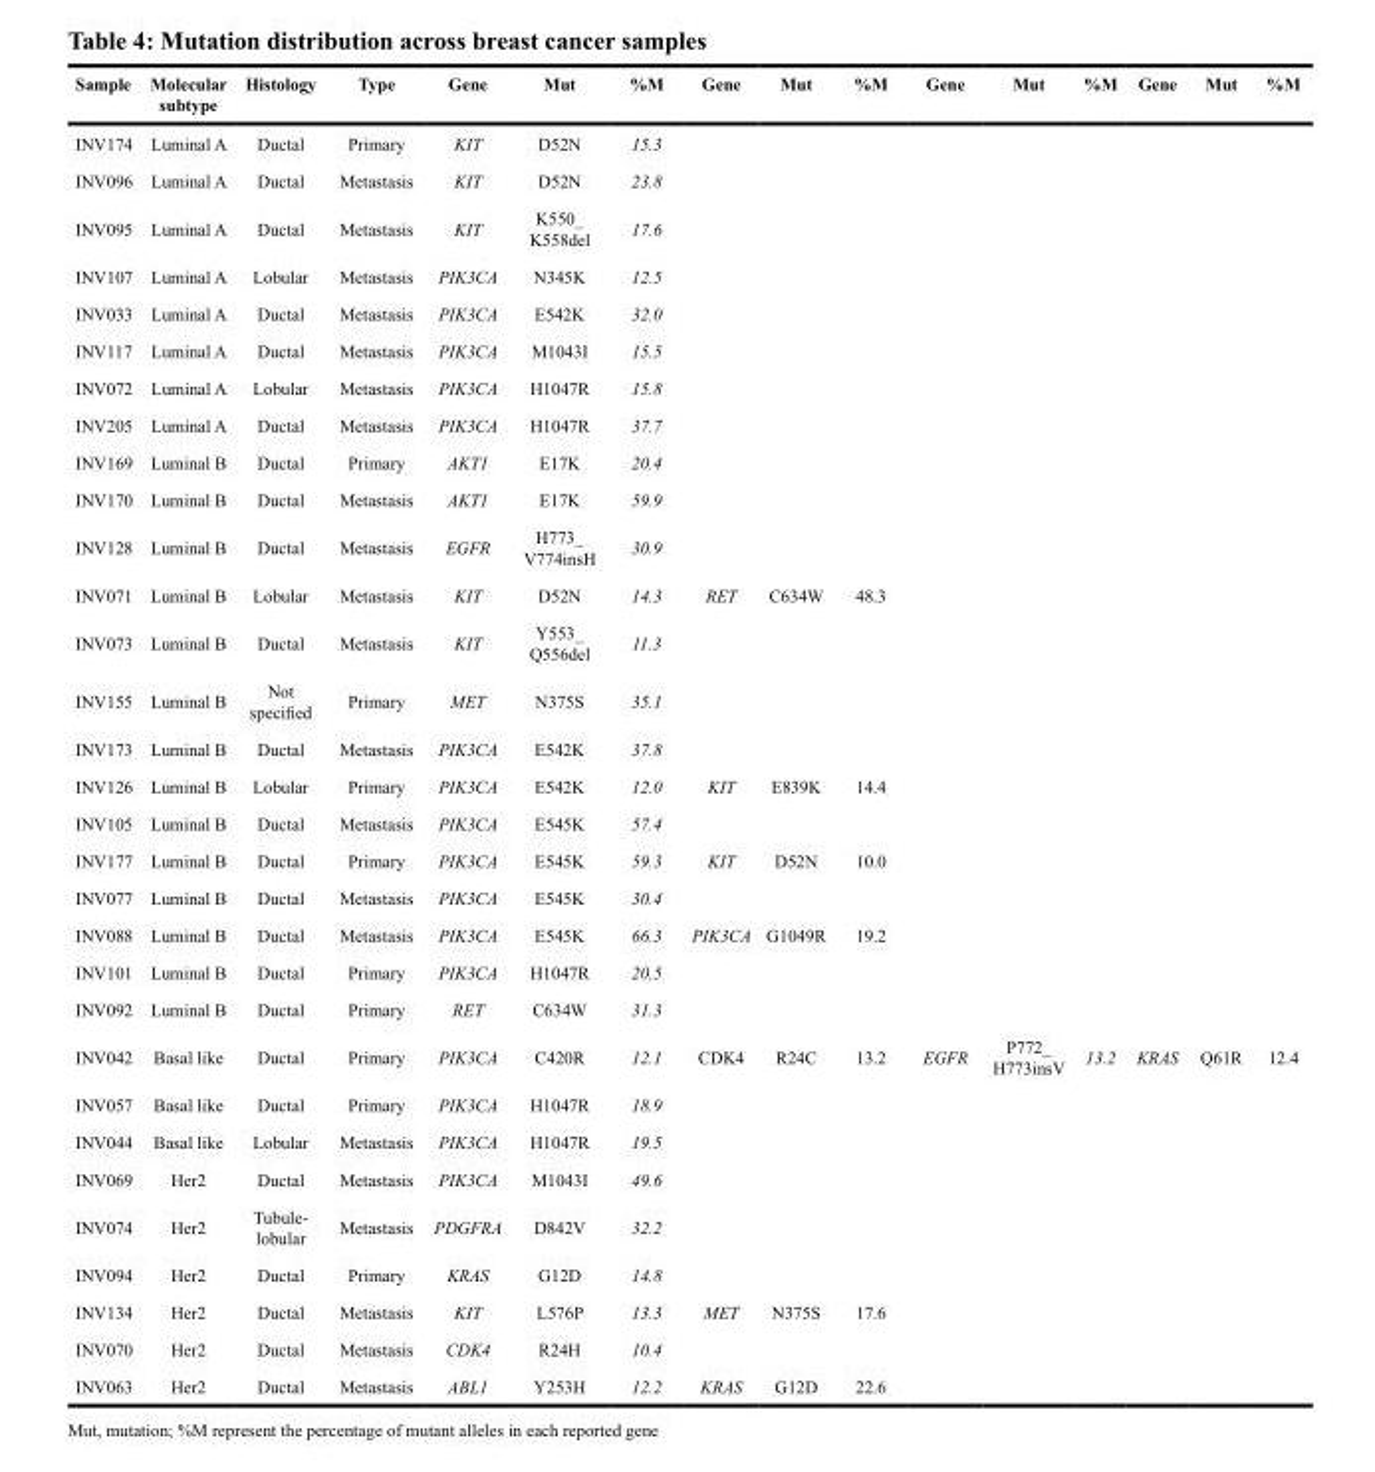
<table><thead><tr><td>Sample</td><td>Molecular subtype</td><td>Histology</td><td>Type</td><td>Gene</td><td>Mut</td><td>%M</td><td>Gene</td><td>Mut</td><td>%M</td><td>Gene</td><td>Mut</td><td>%M</td><td>Gene</td><td>Mut</td><td>%M</td></tr></thead><tbody><tr><td>INV174</td><td>Luminal A</td><td>Ductal</td><td>Primary</td><td>KIT</td><td>D52N</td><td>15.3</td><td></td><td></td><td></td><td></td><td></td><td></td><td></td><td></td><td></td></tr><tr><td>INV096</td><td>Luminal A</td><td>Ductal</td><td>Metastasis</td><td>KIT</td><td>D52N</td><td>23.8</td><td></td><td></td><td></td><td></td><td></td><td></td><td></td><td></td><td></td></tr><tr><td>INV095</td><td>Luminal A</td><td>Ductal</td><td>Metastasis</td><td>KIT</td><td>K550_ K558del</td><td>17.6</td><td></td><td></td><td></td><td></td><td></td><td></td><td></td><td></td><td></td></tr><tr><td>INV107</td><td>Luminal A</td><td>Lobular</td><td>Metastasis</td><td>PIK3CA</td><td>N345K</td><td>12.5</td><td></td><td></td><td></td><td></td><td></td><td></td><td></td><td></td><td></td></tr><tr><td>INV033</td><td>Luminal A</td><td>Ductal</td><td>Metastasis</td><td>PIK3CA</td><td>E542K</td><td>32.0</td><td></td><td></td><td></td><td></td><td></td><td></td><td></td><td></td><td></td></tr><tr><td>INV117</td><td>Luminal A</td><td>Ductal</td><td>Metastasis</td><td>PIK3CA</td><td>M1043I</td><td>15.5</td><td></td><td></td><td></td><td></td><td></td><td></td><td></td><td></td><td></td></tr><tr><td>INV072</td><td>Luminal A</td><td>Lobular</td><td>Metastasis</td><td>PIK3CA</td><td>H1047R</td><td>15.8</td><td></td><td></td><td></td><td></td><td></td><td></td><td></td><td></td><td></td></tr><tr><td>INV205</td><td>Luminal A</td><td>Ductal</td><td>Metastasis</td><td>PIK3CA</td><td>H1047R</td><td>37.7</td><td></td><td></td><td></td><td></td><td></td><td></td><td></td><td></td><td></td></tr><tr><td>INV169</td><td>Luminal B</td><td>Ductal</td><td>Primary</td><td>AKT1</td><td>E17K</td><td>20.4</td><td></td><td></td><td></td><td></td><td></td><td></td><td></td><td></td><td></td></tr><tr><td>INV170</td><td>Luminal B</td><td>Ductal</td><td>Metastasis</td><td>AKT1</td><td>E17K</td><td>59.9</td><td></td><td></td><td></td><td></td><td></td><td></td><td></td><td></td><td></td></tr><tr><td>INV128</td><td>Luminal B</td><td>Ductal</td><td>Metastasis</td><td>EGFR</td><td>H773_ V774insH</td><td>30.9</td><td></td><td></td><td></td><td></td><td></td><td></td><td></td><td></td><td></td></tr><tr><td>INV071</td><td>Luminal B</td><td>Lobular</td><td>Metastasis</td><td>KIT</td><td>D52N</td><td>14.3</td><td>RET</td><td>C634W</td><td>48.3</td><td></td><td></td><td></td><td></td><td></td><td></td></tr><tr><td>INV073</td><td>Luminal B</td><td>Ductal</td><td>Metastasis</td><td>KIT</td><td>Y553_ Q556del</td><td>11.3</td><td></td><td></td><td></td><td></td><td></td><td></td><td></td><td></td><td></td></tr><tr><td>INV155</td><td>Luminal B</td><td>Not specified</td><td>Primary</td><td>MET</td><td>N375S</td><td>35.1</td><td></td><td></td><td></td><td></td><td></td><td></td><td></td><td></td><td></td></tr><tr><td>INV173</td><td>Luminal B</td><td>Ductal</td><td>Metastasis</td><td>PIK3CA</td><td>E542K</td><td>37.8</td><td></td><td></td><td></td><td></td><td></td><td></td><td></td><td></td><td></td></tr><tr><td>INV126</td><td>Luminal B</td><td>Lobular</td><td>Primary</td><td>PIK3CA</td><td>E542K</td><td>12.0</td><td>KIT</td><td>E839K</td><td>14.4</td><td></td><td></td><td></td><td></td><td></td><td></td></tr><tr><td>INV105</td><td>Luminal B</td><td>Ductal</td><td>Metastasis</td><td>PIK3CA</td><td>E545K</td><td>57.4</td><td></td><td></td><td></td><td></td><td></td><td></td><td></td><td></td><td></td></tr><tr><td>INV177</td><td>Luminal B</td><td>Ductal</td><td>Primary</td><td>PIK3CA</td><td>E545K</td><td>59.3</td><td>KIT</td><td>D52N</td><td>10.0</td><td></td><td></td><td></td><td></td><td></td><td></td></tr><tr><td>INV077</td><td>Luminal B</td><td>Ductal</td><td>Metastasis</td><td>PIK3CA</td><td>E545K</td><td>30.4</td><td></td><td></td><td></td><td></td><td></td><td></td><td></td><td></td><td></td></tr><tr><td>INV088</td><td>Luminal B</td><td>Ductal</td><td>Metastasis</td><td>PIK3CA</td><td>E545K</td><td>66.3</td><td>PIK3CA</td><td>G1049R</td><td>19.2</td><td></td><td></td><td></td><td></td><td></td><td></td></tr><tr><td>INV101</td><td>Luminal B</td><td>Ductal</td><td>Primary</td><td>PIK3CA</td><td>H1047R</td><td>20.5</td><td></td><td></td><td></td><td></td><td></td><td></td><td></td><td></td><td></td></tr><tr><td>INV092</td><td>Luminal B</td><td>Ductal</td><td>Primary</td><td>RET</td><td>C634W</td><td>31.3</td><td></td><td></td><td></td><td></td><td></td><td></td><td></td><td></td><td></td></tr><tr><td>INV042</td><td>Basal like</td><td>Ductal</td><td>Primary</td><td>PIK3CA</td><td>C420R</td><td>12.1</td><td>CDK4</td><td>R24C</td><td>13.2</td><td>EGFR</td><td>P772_ H773insV</td><td>13.2</td><td>KRAS</td><td>Q61R</td><td>12.4</td></tr><tr><td>INV057</td><td>Basal like</td><td>Ductal</td><td>Primary</td><td>PIK3CA</td><td>H1047R</td><td>18.9</td><td></td><td></td><td></td><td></td><td></td><td></td><td></td><td></td><td></td></tr><tr><td>INV044</td><td>Basal like</td><td>Lobular</td><td>Metastasis</td><td>PIK3CA</td><td>H1047R</td><td>19.5</td><td></td><td></td><td></td><td></td><td></td><td></td><td></td><td></td><td></td></tr><tr><td>INV069</td><td>Her2</td><td>Ductal</td><td>Metastasis</td><td>PIK3CA</td><td>M1043I</td><td>49.6</td><td></td><td></td><td></td><td></td><td></td><td></td><td></td><td></td><td></td></tr><tr><td>INV074</td><td>Her2</td><td>Tubule- lobular</td><td>Metastasis</td><td>PDGFRA</td><td>D842V</td><td>32.2</td><td></td><td></td><td></td><td></td><td></td><td></td><td></td><td></td><td></td></tr><tr><td>INV094</td><td>Her2</td><td>Ductal</td><td>Primary</td><td>KRAS</td><td>G12D</td><td>14.8</td><td></td><td></td><td></td><td></td><td></td><td></td><td></td><td></td><td></td></tr><tr><td>INV134</td><td>Her2</td><td>Ductal</td><td>Metastasis</td><td>KIT</td><td>L576P</td><td>13.3</td><td>MET</td><td>N375S</td><td>17.6</td><td></td><td></td><td></td><td></td><td></td><td></td></tr><tr><td>INV070</td><td>Her2</td><td>Ductal</td><td>Metastasis</td><td>CDK4</td><td>R24H</td><td>10.4</td><td></td><td></td><td></td><td></td><td></td><td></td><td></td><td></td><td></td></tr><tr><td>INV063</td><td>Her2</td><td>Ductal</td><td>Metastasis</td><td>ABL1</td><td>Y253H</td><td>12.2</td><td>KRAS</td><td>G12D</td><td>22.6</td><td></td><td></td><td></td><td></td><td></td><td></td></tr></tbody></table>